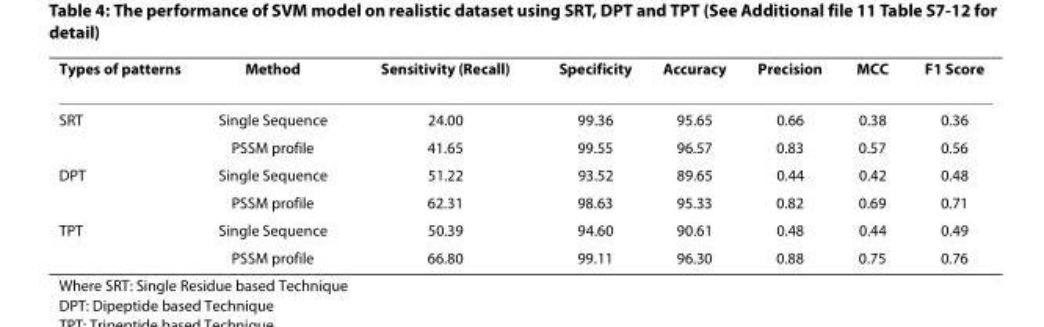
<table><thead><tr><td>Types of patterns</td><td>Method</td><td>Sensitivity (Recall)</td><td>Specificity</td><td>Accuracy</td><td>Precision</td><td>MCC</td><td>F1 Score</td></tr></thead><tbody><tr><td rowspan="2">SRT</td><td>Single Sequence</td><td>24.00</td><td>99.36</td><td>95.65</td><td>0.66</td><td>0.38</td><td>0.36</td></tr><tr><td>PSSM profile</td><td>41.65</td><td>99.55</td><td>96.57</td><td>0.83</td><td>0.57</td><td>0.56</td></tr><tr><td rowspan="2">DPT</td><td>Single Sequence</td><td>51.22</td><td>93.52</td><td>89.65</td><td>0.44</td><td>0.42</td><td>0.48</td></tr><tr><td>PSSM profile</td><td>62.31</td><td>98.63</td><td>95.33</td><td>0.82</td><td>0.69</td><td>0.71</td></tr><tr><td rowspan="2">TPT</td><td>Single Sequence</td><td>50.39</td><td>94.60</td><td>90.61</td><td>0.48</td><td>0.44</td><td>0.49</td></tr><tr><td>PSSM profile</td><td>66.80</td><td>99.11</td><td>96.30</td><td>0.88</td><td>0.75</td><td>0.76</td></tr></tbody></table>